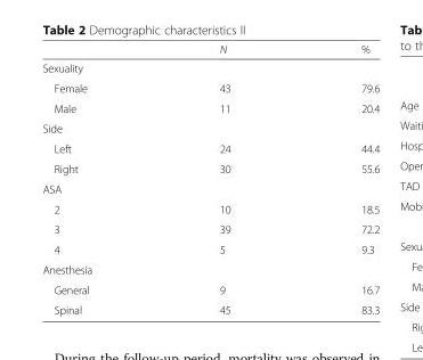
<table><thead><tr><td></td><td>N</td><td>%</td></tr></thead><tbody><tr><td colspan="3">Sexuality</td></tr><tr><td>Female</td><td>43</td><td>79.6</td></tr><tr><td>Male</td><td>11</td><td>20.4</td></tr><tr><td colspan="3">Side</td></tr><tr><td>Left</td><td>24</td><td>44.4</td></tr><tr><td>Right</td><td>30</td><td>55.6</td></tr><tr><td colspan="3">ASA</td></tr><tr><td>2</td><td>10</td><td>18.5</td></tr><tr><td>3</td><td>39</td><td>72.2</td></tr><tr><td>4</td><td>5</td><td>9.3</td></tr><tr><td colspan="3">Anesthesia</td></tr><tr><td>General</td><td>9</td><td>16.7</td></tr><tr><td>Spinal</td><td>45</td><td>83.3</td></tr></tbody></table>